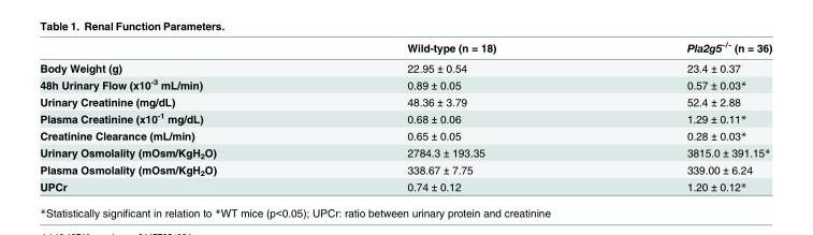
<table><thead><tr><td></td><td>Wild-type (n = 18)</td><td>Pla2g5<sup>-/-</sup> (n = 36)</td></tr></thead><tbody><tr><td>Body Weight (g)</td><td>22.95 ± 0.54</td><td>23.4 ± 0.37</td></tr><tr><td>48h Urinary Flow (x10<sup>-3</sup> mL/min)</td><td>0.89 ± 0.05</td><td>0.57 ± 0.03*</td></tr><tr><td>Urinary Creatinine (mg/dL)</td><td>48.36 ± 3.79</td><td>52.4 ± 2.88</td></tr><tr><td>Plasma Creatinine (x10<sup>-1</sup> mg/dL)</td><td>0.68 ± 0.06</td><td>1.29 ± 0.11*</td></tr><tr><td>Creatinine Clearance (mL/min)</td><td>0.65 ± 0.05</td><td>0.28 ± 0.03*</td></tr><tr><td>Urinary Osmolality (mOsm/KgH<sub>2</sub>O)</td><td>2784.3 ± 193.35</td><td>3815.0 ± 391.15*</td></tr><tr><td>Plasma Osmolality (mOsm/KgH<sub>2</sub>O)</td><td>338.67 ± 7.75</td><td>339.00 ± 6.24</td></tr><tr><td>UPCr</td><td>0.74 ± 0.12</td><td>1.20 ± 0.12*</td></tr></tbody></table>